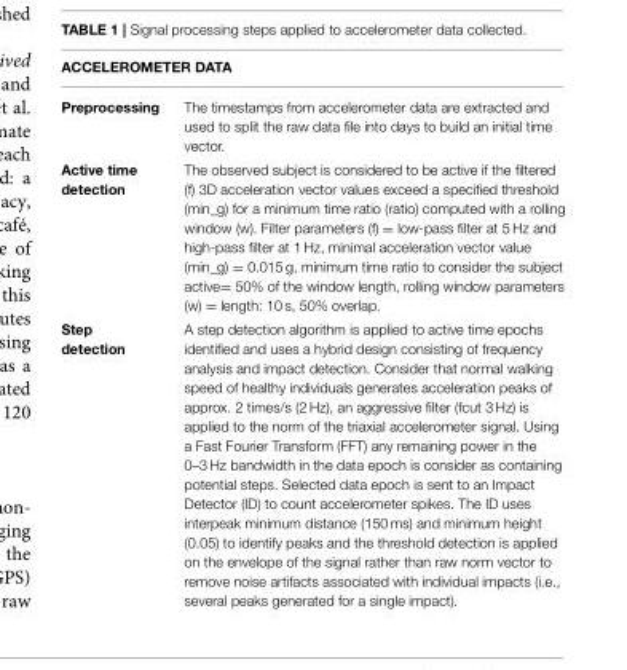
<table><thead><tr><td colspan="2">ACCELEROMETER DATA</td></tr><tr><td>Preprocessing</td><td>The timestamps from accelerometer data are extracted and used to split the raw data file into days to build an initial time vector.</td></tr></thead><tbody><tr><td>Active time detection</td><td>The observed subject is considered to be active if the filtered (f) 3D acceleration vector values exceed a specified threshold (min_g) for a minimum time ratio (ratio) computed with a rolling window (w). Filter parameters (f) = low-pass filter at 5 Hz and high-pass filter at 1 Hz, minimal acceleration vector value (min_g) = 0.015 g, minimum time ratio to consider the subject active= 50% of the window length, rolling window parameters (w) = length: 10 s, 50% overlap.</td></tr><tr><td>Step detection</td><td>A step detection algorithm is applied to active time epochs identified and uses a hybrid design consisting of frequency analysis and impact detection. Consider that normal walking speed of healthy individuals generates acceleration peaks of approx. 2 times/s (2 Hz), an aggressive filter (fcut 3 Hz) is applied to the norm of the triaxial accelerometer signal. Using a Fast Fourier Transform (FFT) any remaining power in the 0–3 Hz bandwidth in the data epoch is consider as containing potential steps. Selected data epoch is sent to an Impact Detector (ID) to count accelerometer spikes. The ID uses interpeak minimum distance (150 ms) and minimum height (0.05) to identify peaks and the threshold detection is applied on the envelope of the signal rather than raw norm vector to remove noise artifacts associated with individual impacts (i.e., several peaks generated for a single impact).</td></tr></tbody></table>